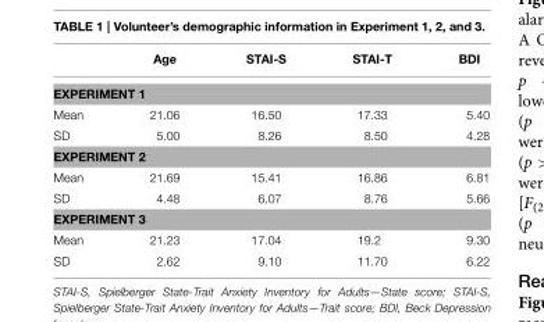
<table><thead><tr><td></td><td>Age</td><td>STAI-S</td><td>STAI-T</td><td>BDI</td></tr></thead><tbody><tr><td colspan="5">EXPERIMENT 1</td></tr><tr><td>Mean</td><td>21.06</td><td>16.50</td><td>17.33</td><td>5.40</td></tr><tr><td>SD</td><td>5.00</td><td>8.26</td><td>8.50</td><td>4.28</td></tr><tr><td colspan="5">EXPERIMENT 2</td></tr><tr><td>Mean</td><td>21.69</td><td>15.41</td><td>16.86</td><td>6.81</td></tr><tr><td>SD</td><td>4.48</td><td>6.07</td><td>8.76</td><td>5.66</td></tr><tr><td colspan="5">EXPERIMENT 3</td></tr><tr><td>Mean</td><td>21.23</td><td>17.04</td><td>19.2</td><td>9.30</td></tr><tr><td>SD</td><td>2.62</td><td>9.10</td><td>11.70</td><td>6.22</td></tr></tbody></table>